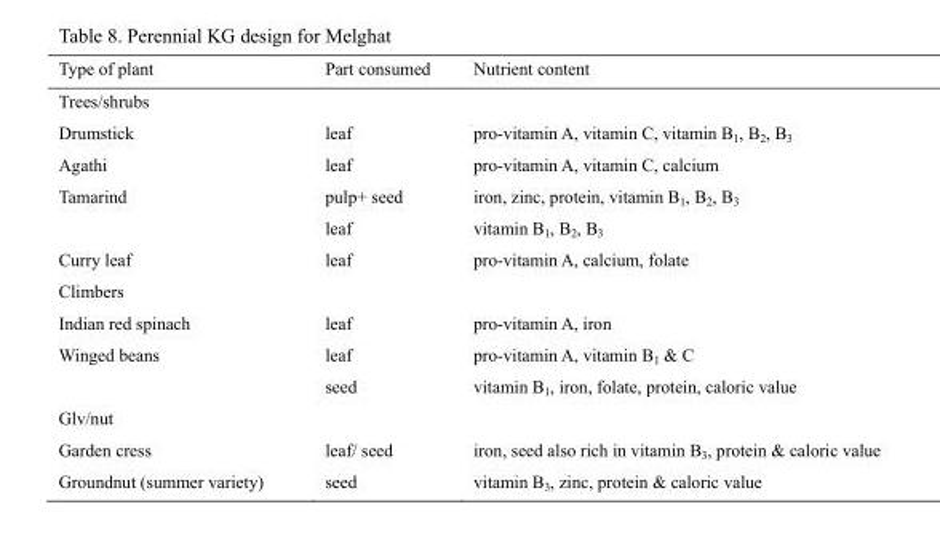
<table><thead><tr><td>Type of plant</td><td>Part consumed</td><td>Nutrient content</td></tr></thead><tbody><tr><td colspan="3">Trees/shrubs</td></tr><tr><td>Drumstick</td><td>leaf</td><td>pro-vitamin A, vitamin C, vitamin B<sub>1</sub>, B<sub>2</sub>, B<sub>3</sub></td></tr><tr><td>Agathi</td><td>leaf</td><td>pro-vitamin A, vitamin C, calcium</td></tr><tr><td rowspan="2">Tamarind</td><td>pulp+ seed</td><td>iron, zinc, protein, vitamin B<sub>1</sub>, B<sub>2</sub>, B<sub>3</sub></td></tr><tr><td>leaf</td><td>vitamin B<sub>1</sub>, B<sub>2</sub>, B<sub>3</sub></td></tr><tr><td>Curry leaf</td><td>leaf</td><td>pro-vitamin A, calcium, folate</td></tr><tr><td colspan="3">Climbers</td></tr><tr><td>Indian red spinach</td><td>leaf</td><td>pro-vitamin A, iron</td></tr><tr><td rowspan="2">Winged beans</td><td>leaf</td><td>pro-vitamin A, vitamin B<sub>1</sub> &amp; C</td></tr><tr><td>seed</td><td>vitamin B<sub>1</sub>, iron, folate, protein, caloric value</td></tr><tr><td colspan="3">Glv/nut</td></tr><tr><td>Garden cress</td><td>leaf/ seed</td><td>iron, seed also rich in vitamin B<sub>3</sub>, protein &amp; caloric value</td></tr><tr><td>Groundnut (summer variety)</td><td>seed</td><td>vitamin B<sub>3</sub>, zinc, protein &amp; caloric value</td></tr></tbody></table>